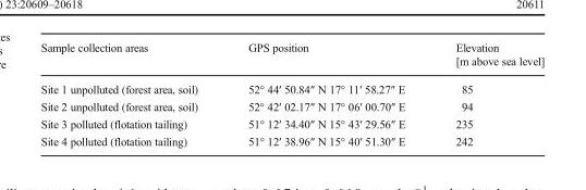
<table><thead><tr><td>Sample collection areas</td><td>GPS position</td><td>Elevation [m above sea level]</td></tr></thead><tbody><tr><td>Site 1 unpolluted (forest area, soil)</td><td>52° 44′ 50.84″ N 17° 11′ 58.27″ E</td><td>85</td></tr><tr><td>Site 2 unpolluted (forest area, soil)</td><td>52° 42′ 02.17″ N 17° 06′ 00.70″ E</td><td>94</td></tr><tr><td>Site 3 polluted (flotation tailing)</td><td>51° 12′ 34.40″ N 15° 43′ 29.56″ E</td><td>235</td></tr><tr><td>Site 4 polluted (flotation tailing)</td><td>51° 12′ 38.96″ N 15° 40′ 51.30″ E</td><td>242</td></tr></tbody></table>